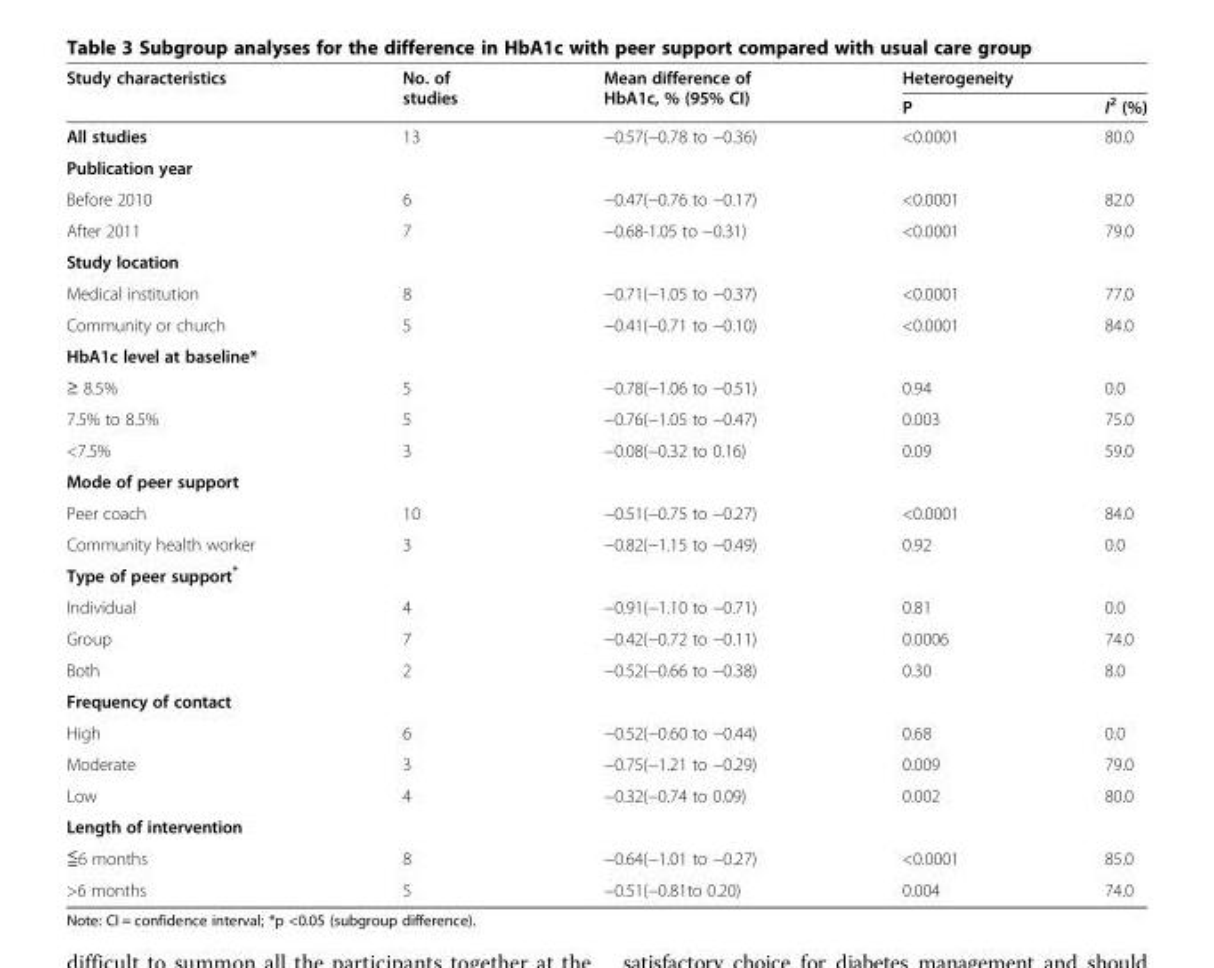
<table><thead><tr><td rowspan="2">Study characteristics</td><td rowspan="2">No. of studies</td><td rowspan="2">Mean difference of HbA1c, % (95% CI)</td><td colspan="2">Heterogeneity</td></tr><tr><td>P</td><td>I<sup>2</sup> (%)</td></tr></thead><tbody><tr><td>All studies</td><td>13</td><td>−0.57(−0.78 to −0.36)</td><td>&lt;0.0001</td><td>80.0</td></tr><tr><td colspan="5">Publication year</td></tr><tr><td>Before 2010</td><td>6</td><td>−0.47(−0.76 to −0.17)</td><td>&lt;0.0001</td><td>82.0</td></tr><tr><td>After 2011</td><td>7</td><td>−0.68-1.05 to −0.31)</td><td>&lt;0.0001</td><td>79.0</td></tr><tr><td colspan="5">Study location</td></tr><tr><td>Medical institution</td><td>8</td><td>−0.71(−1.05 to −0.37)</td><td>&lt;0.0001</td><td>77.0</td></tr><tr><td>Community or church</td><td>5</td><td>−0.41(−0.71 to −0.10)</td><td>&lt;0.0001</td><td>84.0</td></tr><tr><td colspan="5">HbA1c level at baseline*</td></tr><tr><td>≥ 8.5%</td><td>5</td><td>−0.78(−1.06 to −0.51)</td><td>0.94</td><td>0.0</td></tr><tr><td>7.5% to 8.5%</td><td>5</td><td>−0.76(−1.05 to −0.47)</td><td>0.003</td><td>75.0</td></tr><tr><td>&lt;7.5%</td><td>3</td><td>−0.08(−0.32 to 0.16)</td><td>0.09</td><td>59.0</td></tr><tr><td colspan="5">Mode of peer support</td></tr><tr><td>Peer coach</td><td>10</td><td>−0.51(−0.75 to −0.27)</td><td>&lt;0.0001</td><td>84.0</td></tr><tr><td>Community health worker</td><td>3</td><td>−0.82(−1.15 to −0.49)</td><td>0.92</td><td>0.0</td></tr><tr><td colspan="5">Type of peer support*</td></tr><tr><td>Individual</td><td>4</td><td>−0.91(−1.10 to −0.71)</td><td>0.81</td><td>0.0</td></tr><tr><td>Group</td><td>7</td><td>−0.42(−0.72 to −0.11)</td><td>0.0006</td><td>74.0</td></tr><tr><td>Both</td><td>2</td><td>−0.52(−0.66 to −0.38)</td><td>0.30</td><td>8.0</td></tr><tr><td colspan="5">Frequency of contact</td></tr><tr><td>High</td><td>6</td><td>−0.52(−0.60 to −0.44)</td><td>0.68</td><td>0.0</td></tr><tr><td>Moderate</td><td>3</td><td>−0.75(−1.21 to −0.29)</td><td>0.009</td><td>79.0</td></tr><tr><td>Low</td><td>4</td><td>−0.32(−0.74 to 0.09)</td><td>0.002</td><td>80.0</td></tr><tr><td colspan="5">Length of intervention</td></tr><tr><td>≦6 months</td><td>8</td><td>−0.64(−1.01 to −0.27)</td><td>&lt;0.0001</td><td>85.0</td></tr><tr><td>&gt;6 months</td><td>5</td><td>−0.51(−0.81to 0.20)</td><td>0.004</td><td>74.0</td></tr></tbody></table>